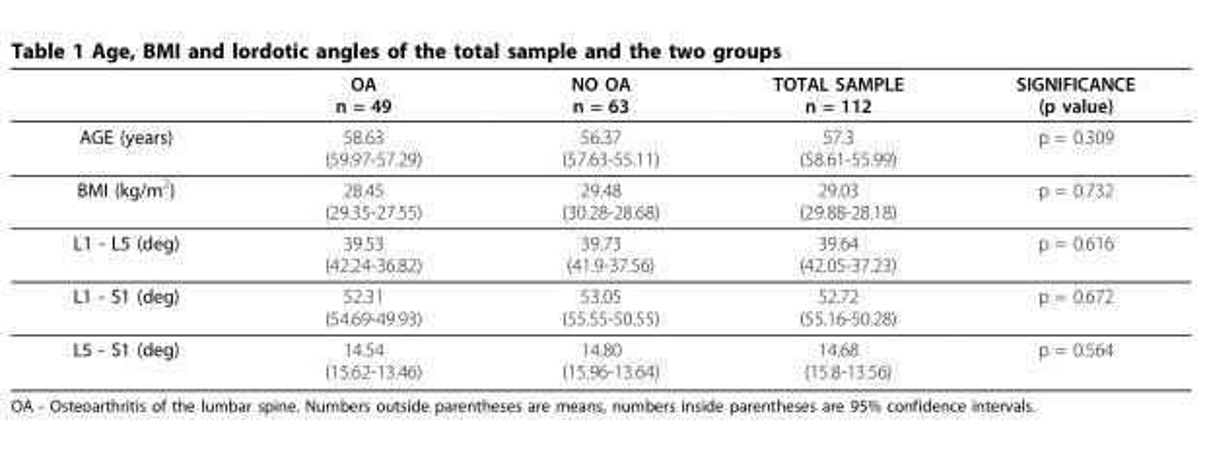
<table><thead><tr><td></td><td>OA n = 49</td><td>NO OA n = 63</td><td>TOTAL SAMPLE n = 112</td><td>SIGNIFICANCE (p value)</td></tr></thead><tbody><tr><td>AGE (years)</td><td>58.63 (59.97-57.29)</td><td>56.37 (57.63-55.11)</td><td>57.3 (58.61-55.99)</td><td>p = 0.309</td></tr><tr><td>BMI (kg/m<sup>2</sup>)</td><td>28.45 (29.35-27.55)</td><td>29.48 (30.28-28.68)</td><td>29.03 (29.88-28.18)</td><td>p = 0.732</td></tr><tr><td>L1 - L5 (deg)</td><td>39.53 (42.24-36.82)</td><td>39.73 (41.9-37.56)</td><td>39.64 (42.05-37.23)</td><td>p = 0.616</td></tr><tr><td>L1 - S1 (deg)</td><td>52.31 (54.69-49.93)</td><td>53.05 (55.55-50.55)</td><td>52.72 (55.16-50.28)</td><td>p = 0.672</td></tr><tr><td>L5 - S1 (deg)</td><td>14.54 (15.62-13.46)</td><td>14.80 (15.96-13.64)</td><td>14.68 (15.8-13.56)</td><td>p = 0.564</td></tr></tbody></table>